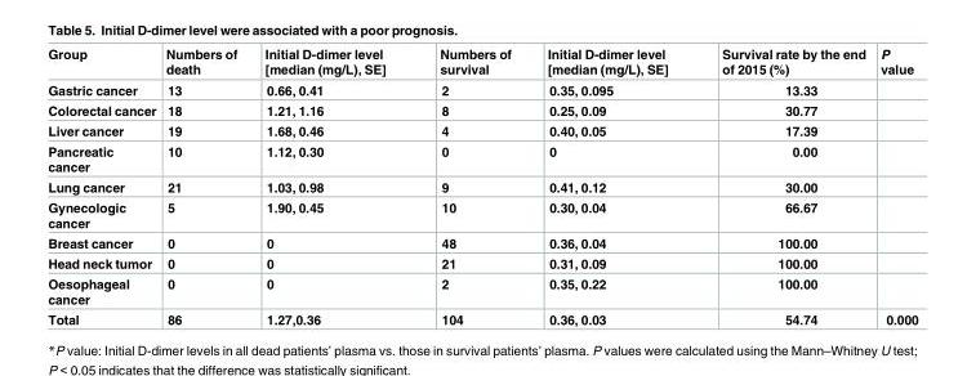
<table><thead><tr><td>Group</td><td>Numbers of death</td><td>Initial D-dimer level [median (mg/L), SE]</td><td>Numbers of survival</td><td>Initial D-dimer level [median (mg/L), SE]</td><td>Survival rate by the end of 2015 (%)</td><td>P value</td></tr></thead><tbody><tr><td>Gastric cancer</td><td>13</td><td>0.66, 0.41</td><td>2</td><td>0.35, 0.095</td><td>13.33</td><td></td></tr><tr><td>Colorectal cancer</td><td>18</td><td>1.21, 1.16</td><td>8</td><td>0.25, 0.09</td><td>30.77</td><td></td></tr><tr><td>Liver cancer</td><td>19</td><td>1.68, 0.46</td><td>4</td><td>0.40, 0.05</td><td>17.39</td><td></td></tr><tr><td>Pancreatic cancer</td><td>10</td><td>1.12, 0.30</td><td>0</td><td>0</td><td>0.00</td><td></td></tr><tr><td>Lung cancer</td><td>21</td><td>1.03, 0.98</td><td>9</td><td>0.41, 0.12</td><td>30.00</td><td></td></tr><tr><td>Gynecologic cancer</td><td>5</td><td>1.90, 0.45</td><td>10</td><td>0.30, 0.04</td><td>66.67</td><td></td></tr><tr><td>Breast cancer</td><td>0</td><td>0</td><td>48</td><td>0.36, 0.04</td><td>100.00</td><td></td></tr><tr><td>Head neck tumor</td><td>0</td><td>0</td><td>21</td><td>0.31, 0.09</td><td>100.00</td><td></td></tr><tr><td>Oesophageal cancer</td><td>0</td><td>0</td><td>2</td><td>0.35, 0.22</td><td>100.00</td><td></td></tr><tr><td>Total</td><td>86</td><td>1.27,0.36</td><td>104</td><td>0.36, 0.03</td><td>54.74</td><td>0.000</td></tr></tbody></table>